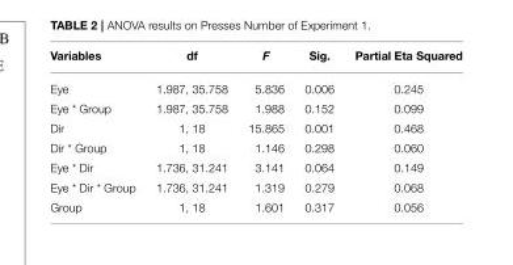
<table><thead><tr><td>Variables</td><td>df</td><td>F</td><td>Sig.</td><td>Partial Eta Squared</td></tr></thead><tbody><tr><td>Eye</td><td>1.987, 35.758</td><td>5.836</td><td>0.006</td><td>0.245</td></tr><tr><td>Eye * Group</td><td>1.987, 35.758</td><td>1.988</td><td>0.152</td><td>0.099</td></tr><tr><td>Dir</td><td>1, 18</td><td>15.865</td><td>0.001</td><td>0.468</td></tr><tr><td>Dir * Group</td><td>1, 18</td><td>1.146</td><td>0.298</td><td>0.060</td></tr><tr><td>Eye * Dir</td><td>1.736, 31.241</td><td>3.141</td><td>0.064</td><td>0.149</td></tr><tr><td>Eye * Dir * Group</td><td>1.736, 31.241</td><td>1.319</td><td>0.279</td><td>0.068</td></tr><tr><td>Group</td><td>1, 18</td><td>1.601</td><td>0.317</td><td>0.056</td></tr></tbody></table>